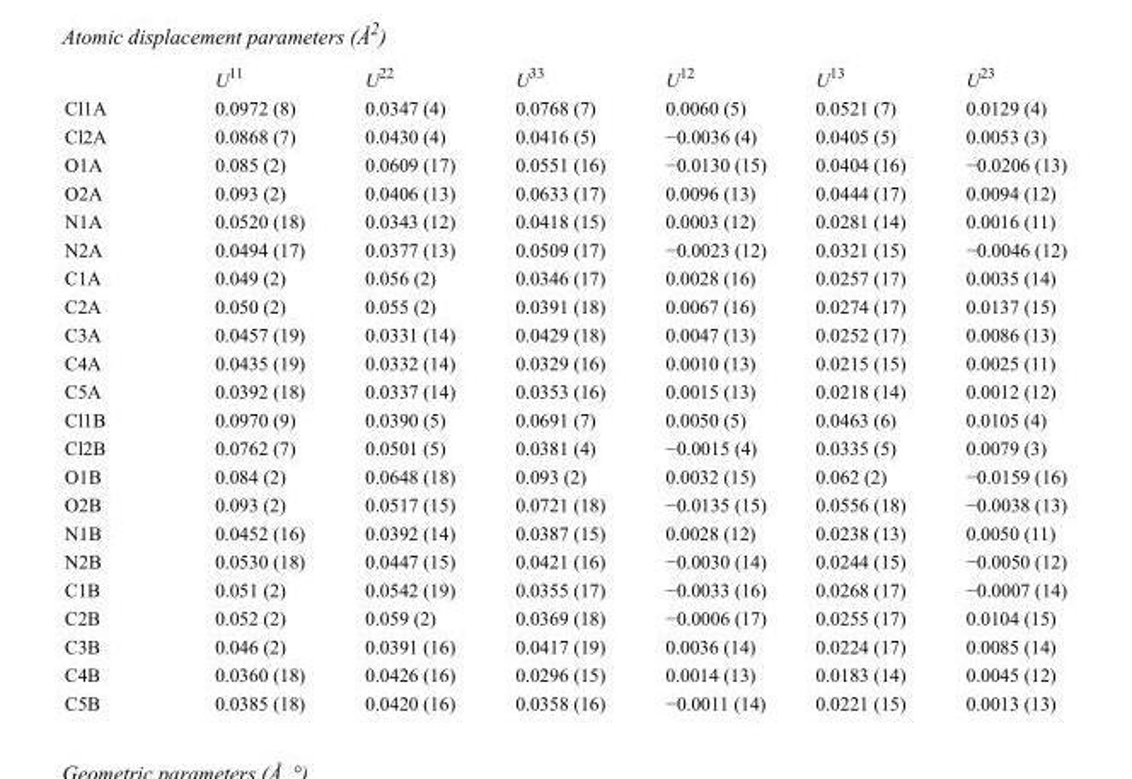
<table><thead><tr><td></td><td>U<sup>11</sup></td><td>U<sup>22</sup></td><td>U<sup>33</sup></td><td>U<sup>12</sup></td><td>U<sup>13</sup></td><td>U<sup>23</sup></td></tr></thead><tbody><tr><td>Cl1A</td><td>0.0972 (8)</td><td>0.0347 (4)</td><td>0.0768 (7)</td><td>0.0060 (5)</td><td>0.0521 (7)</td><td>0.0129 (4)</td></tr><tr><td>Cl2A</td><td>0.0868 (7)</td><td>0.0430 (4)</td><td>0.0416 (5)</td><td>−0.0036 (4)</td><td>0.0405 (5)</td><td>0.0053 (3)</td></tr><tr><td>O1A</td><td>0.085 (2)</td><td>0.0609 (17)</td><td>0.0551 (16)</td><td>−0.0130 (15)</td><td>0.0404 (16)</td><td>−0.0206 (13)</td></tr><tr><td>O2A</td><td>0.093 (2)</td><td>0.0406 (13)</td><td>0.0633 (17)</td><td>0.0096 (13)</td><td>0.0444 (17)</td><td>0.0094 (12)</td></tr><tr><td>N1A</td><td>0.0520 (18)</td><td>0.0343 (12)</td><td>0.0418 (15)</td><td>0.0003 (12)</td><td>0.0281 (14)</td><td>0.0016 (11)</td></tr><tr><td>N2A</td><td>0.0494 (17)</td><td>0.0377 (13)</td><td>0.0509 (17)</td><td>−0.0023 (12)</td><td>0.0321 (15)</td><td>−0.0046 (12)</td></tr><tr><td>C1A</td><td>0.049 (2)</td><td>0.056 (2)</td><td>0.0346 (17)</td><td>0.0028 (16)</td><td>0.0257 (17)</td><td>0.0035 (14)</td></tr><tr><td>C2A</td><td>0.050 (2)</td><td>0.055 (2)</td><td>0.0391 (18)</td><td>0.0067 (16)</td><td>0.0274 (17)</td><td>0.0137 (15)</td></tr><tr><td>C3A</td><td>0.0457 (19)</td><td>0.0331 (14)</td><td>0.0429 (18)</td><td>0.0047 (13)</td><td>0.0252 (17)</td><td>0.0086 (13)</td></tr><tr><td>C4A</td><td>0.0435 (19)</td><td>0.0332 (14)</td><td>0.0329 (16)</td><td>0.0010 (13)</td><td>0.0215 (15)</td><td>0.0025 (11)</td></tr><tr><td>C5A</td><td>0.0392 (18)</td><td>0.0337 (14)</td><td>0.0353 (16)</td><td>0.0015 (13)</td><td>0.0218 (14)</td><td>0.0012 (12)</td></tr><tr><td>Cl1B</td><td>0.0970 (9)</td><td>0.0390 (5)</td><td>0.0691 (7)</td><td>0.0050 (5)</td><td>0.0463 (6)</td><td>0.0105 (4)</td></tr><tr><td>Cl2B</td><td>0.0762 (7)</td><td>0.0501 (5)</td><td>0.0381 (4)</td><td>−0.0015 (4)</td><td>0.0335 (5)</td><td>0.0079 (3)</td></tr><tr><td>O1B</td><td>0.084 (2)</td><td>0.0648 (18)</td><td>0.093 (2)</td><td>0.0032 (15)</td><td>0.062 (2)</td><td>−0.0159 (16)</td></tr><tr><td>O2B</td><td>0.093 (2)</td><td>0.0517 (15)</td><td>0.0721 (18)</td><td>−0.0135 (15)</td><td>0.0556 (18)</td><td>−0.0038 (13)</td></tr><tr><td>N1B</td><td>0.0452 (16)</td><td>0.0392 (14)</td><td>0.0387 (15)</td><td>0.0028 (12)</td><td>0.0238 (13)</td><td>0.0050 (11)</td></tr><tr><td>N2B</td><td>0.0530 (18)</td><td>0.0447 (15)</td><td>0.0421 (16)</td><td>−0.0030 (14)</td><td>0.0244 (15)</td><td>−0.0050 (12)</td></tr><tr><td>C1B</td><td>0.051 (2)</td><td>0.0542 (19)</td><td>0.0355 (17)</td><td>−0.0033 (16)</td><td>0.0268 (17)</td><td>−0.0007 (14)</td></tr><tr><td>C2B</td><td>0.052 (2)</td><td>0.059 (2)</td><td>0.0369 (18)</td><td>−0.0006 (17)</td><td>0.0255 (17)</td><td>0.0104 (15)</td></tr><tr><td>C3B</td><td>0.046 (2)</td><td>0.0391 (16)</td><td>0.0417 (19)</td><td>0.0036 (14)</td><td>0.0224 (17)</td><td>0.0085 (14)</td></tr><tr><td>C4B</td><td>0.0360 (18)</td><td>0.0426 (16)</td><td>0.0296 (15)</td><td>0.0014 (13)</td><td>0.0183 (14)</td><td>0.0045 (12)</td></tr><tr><td>C5B</td><td>0.0385 (18)</td><td>0.0420 (16)</td><td>0.0358 (16)</td><td>−0.0011 (14)</td><td>0.0221 (15)</td><td>0.0013 (13)</td></tr></tbody></table>